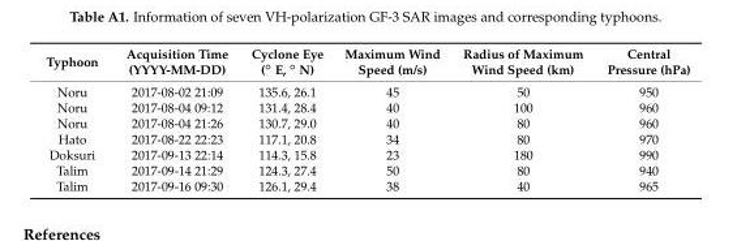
<table><thead><tr><td>Typhoon</td><td>Acquisition Time (YYYY-MM-DD)</td><td>Cyclone Eye (◦ E, ◦ N)</td><td>Maximum Wind Speed (m/s)</td><td>Radius of Maximum Wind Speed (km)</td><td>Central Pressure (hPa)</td></tr></thead><tbody><tr><td>Noru</td><td>2017-08-02 21:09</td><td>135.6, 26.1</td><td>45</td><td>50</td><td>950</td></tr><tr><td>Noru</td><td>2017-08-04 09:12</td><td>131.4, 28.4</td><td>40</td><td>100</td><td>960</td></tr><tr><td>Noru</td><td>2017-08-04 21:26</td><td>130.7, 29.0</td><td>40</td><td>80</td><td>960</td></tr><tr><td>Hato</td><td>2017-08-22 22:23</td><td>117.1, 20.8</td><td>34</td><td>80</td><td>970</td></tr><tr><td>Doksuri</td><td>2017-09-13 22:14</td><td>114.3, 15.8</td><td>23</td><td>180</td><td>990</td></tr><tr><td>Talim</td><td>2017-09-14 21:29</td><td>124.3, 27.4</td><td>50</td><td>80</td><td>940</td></tr><tr><td>Talim</td><td>2017-09-16 09:30</td><td>126.1, 29.4</td><td>38</td><td>40</td><td>965</td></tr></tbody></table>